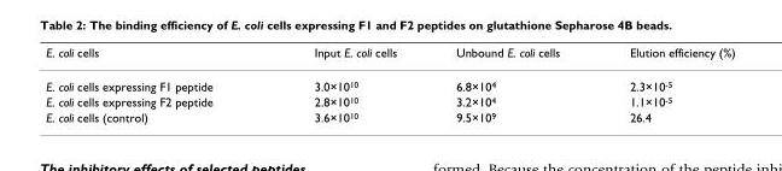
<table><thead><tr><td>E. coli cells</td><td>Input E. coli cells</td><td>Unbound E. coli cells</td><td>Elution efficiency (%)</td></tr></thead><tbody><tr><td>E. coli cells expressing F1 peptide</td><td>3.0×10<sup>10</sup></td><td>6.8×10<sup>4</sup></td><td>2.3×10<sup>-5</sup></td></tr><tr><td>E. coli cells expressing F2 peptide</td><td>2.8×10<sup>10</sup></td><td>3.2×10<sup>4</sup></td><td>1.1×10<sup>-5</sup></td></tr><tr><td>E. coli cells (control)</td><td>3.6×10<sup>10</sup></td><td>9.5×10<sup>9</sup></td><td>26.4</td></tr></tbody></table>